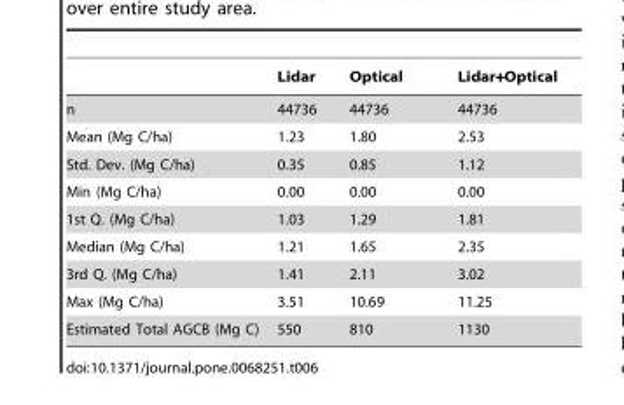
<table><thead><tr><td></td><td>Lidar</td><td>Optical</td><td>Lidar+Optical</td></tr></thead><tbody><tr><td>n</td><td>44736</td><td>44736</td><td>44736</td></tr><tr><td>Mean (Mg C/ha)</td><td>1.23</td><td>1.80</td><td>2.53</td></tr><tr><td>Std. Dev. (Mg C/ha)</td><td>0.35</td><td>0.85</td><td>1.12</td></tr><tr><td>Min (Mg C/ha)</td><td>0.00</td><td>0.00</td><td>0.00</td></tr><tr><td>1st Q. (Mg C/ha)</td><td>1.03</td><td>1.29</td><td>1.81</td></tr><tr><td>Median (Mg C/ha)</td><td>1.21</td><td>1.65</td><td>2.35</td></tr><tr><td>3rd Q. (Mg C/ha)</td><td>1.41</td><td>2.11</td><td>3.02</td></tr><tr><td>Max (Mg C/ha)</td><td>3.51</td><td>10.69</td><td>11.25</td></tr><tr><td>Estimated Total AGCB (Mg C)</td><td>550</td><td>810</td><td>1130</td></tr></tbody></table>